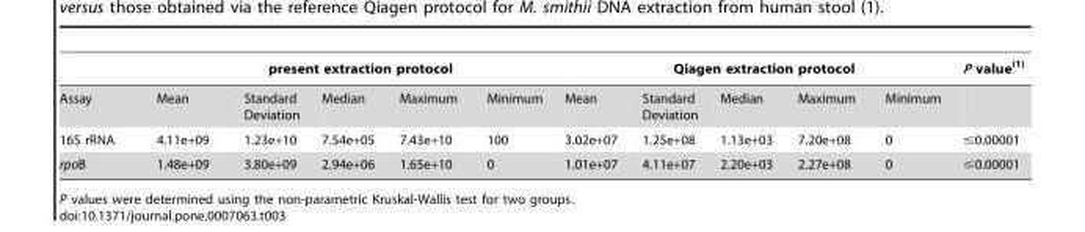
<table><thead><tr><td rowspan="2">Assay</td><td colspan="5">present extraction protocol</td><td colspan="5">Qiagen extraction protocol</td><td rowspan="2">P value<sup>(1)</sup></td></tr><tr><td>Mean</td><td>Standard Deviation</td><td>Median</td><td>Maximum</td><td>Minimum</td><td>Mean</td><td>Standard Deviation</td><td>Median</td><td>Maximum</td><td>Minimum</td></tr></thead><tbody><tr><td>16S rRNA</td><td>4.11e+09</td><td>1.23e+10</td><td>7.54e+05</td><td>7.43e+10</td><td>100</td><td>3.02e+07</td><td>1.25e+08</td><td>1.13e+03</td><td>7.20e+08</td><td>0</td><td>≤0.00001</td></tr><tr><td>rpoB</td><td>1.48e+09</td><td>3.80e+09</td><td>2.94e+06</td><td>1.65e+10</td><td>0</td><td>1.01e+07</td><td>4.11e+07</td><td>2.20e+03</td><td>2.27e+08</td><td>0</td><td>≤0.00001</td></tr></tbody></table>